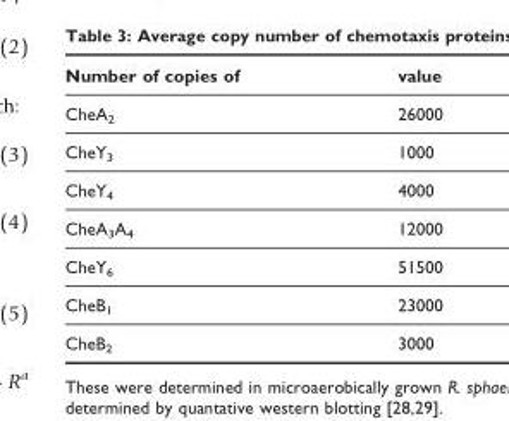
<table><thead><tr><td>Number of copies of</td><td>value</td></tr></thead><tbody><tr><td>CheA<sub>2</sub></td><td>26000</td></tr><tr><td>CheY<sub>3</sub></td><td>1000</td></tr><tr><td>CheY<sub>4</sub></td><td>4000</td></tr><tr><td>CheA<sub>3</sub>A<sub>4</sub></td><td>12000</td></tr><tr><td>CheY<sub>6</sub></td><td>51500</td></tr><tr><td>CheB<sub>1</sub></td><td>23000</td></tr><tr><td>CheB<sub>2</sub></td><td>3000</td></tr></tbody></table>